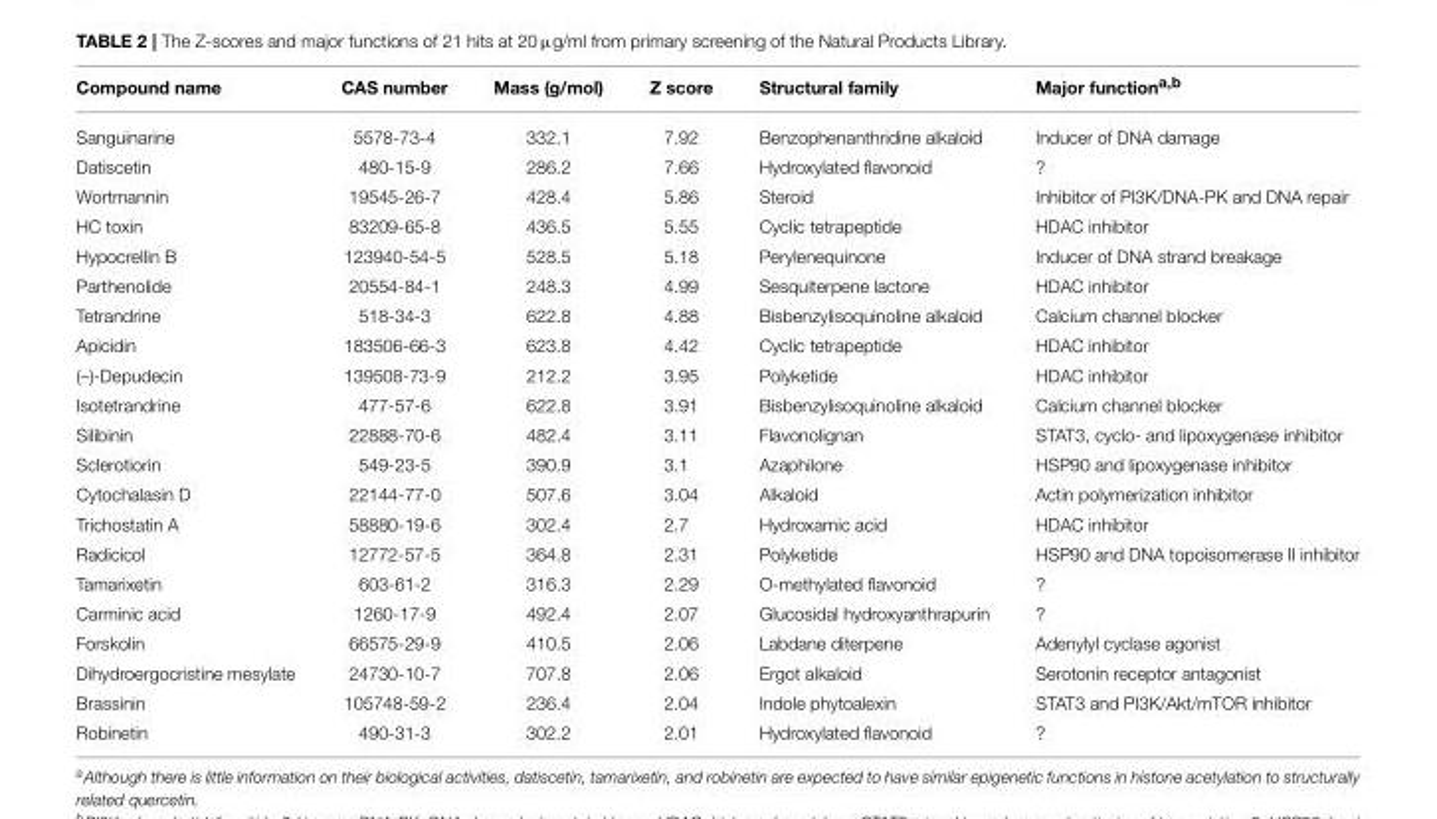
<table><thead><tr><td>Compound name</td><td>CAS number</td><td>Mass (g/mol)</td><td>Z score</td><td>Structural family</td><td>Major function<sup>a,b</sup></td></tr></thead><tbody><tr><td>Sanguinarine</td><td>5578-73-4</td><td>332.1</td><td>7.92</td><td>Benzophenanthridine alkaloid</td><td>Inducer of DNA damage</td></tr><tr><td>Datiscetin</td><td>480-15-9</td><td>286.2</td><td>7.66</td><td>Hydroxylated flavonoid</td><td>?</td></tr><tr><td>Wortmannin</td><td>19545-26-7</td><td>428.4</td><td>5.86</td><td>Steroid</td><td>Inhibitor of PI3K/DNA-PK and DNA repair</td></tr><tr><td>HC toxin</td><td>83209-65-8</td><td>436.5</td><td>5.55</td><td>Cyclic tetrapeptide</td><td>HDAC inhibitor</td></tr><tr><td>Hypocrellin B</td><td>123940-54-5</td><td>528.5</td><td>5.18</td><td>Perylenequinone</td><td>Inducer of DNA strand breakage</td></tr><tr><td>Parthenolide</td><td>20554-84-1</td><td>248.3</td><td>4.99</td><td>Sesquiterpene lactone</td><td>HDAC inhibitor</td></tr><tr><td>Tetrandrine</td><td>518-34-3</td><td>622.8</td><td>4.88</td><td>Bisbenzylisoquinoline alkaloid</td><td>Calcium channel blocker</td></tr><tr><td>Apicidin</td><td>183506-66-3</td><td>623.8</td><td>4.42</td><td>Cyclic tetrapeptide</td><td>HDAC inhibitor</td></tr><tr><td>(–)-Depudecin</td><td>139508-73-9</td><td>212.2</td><td>3.95</td><td>Polyketide</td><td>HDAC inhibitor</td></tr><tr><td>Isotetrandrine</td><td>477-57-6</td><td>622.8</td><td>3.91</td><td>Bisbenzylisoquinoline alkaloid</td><td>Calcium channel blocker</td></tr><tr><td>Silibinin</td><td>22888-70-6</td><td>482.4</td><td>3.11</td><td>Flavonolignan</td><td>STAT3, cyclo- and lipoxygenase inhibitor</td></tr><tr><td>Sclerotiorin</td><td>549-23-5</td><td>390.9</td><td>3.1</td><td>Azaphilone</td><td>HSP90 and lipoxygenase inhibitor</td></tr><tr><td>Cytochalasin D</td><td>22144-77-0</td><td>507.6</td><td>3.04</td><td>Alkaloid</td><td>Actin polymerization inhibitor</td></tr><tr><td>Trichostatin A</td><td>58880-19-6</td><td>302.4</td><td>2.7</td><td>Hydroxamic acid</td><td>HDAC inhibitor</td></tr><tr><td>Radicicol</td><td>12772-57-5</td><td>364.8</td><td>2.31</td><td>Polyketide</td><td>HSP90 and DNA topoisomerase II inhibitor</td></tr><tr><td>Tamarixetin</td><td>603-61-2</td><td>316.3</td><td>2.29</td><td>O-methylated flavonoid</td><td>?</td></tr><tr><td>Carminic acid</td><td>1260-17-9</td><td>492.4</td><td>2.07</td><td>Glucosidal hydroxyanthrapurin</td><td>?</td></tr><tr><td>Forskolin</td><td>66575-29-9</td><td>410.5</td><td>2.06</td><td>Labdane diterpene</td><td>Adenylyl cyclase agonist</td></tr><tr><td>Dihydroergocristine mesylate</td><td>24730-10-7</td><td>707.8</td><td>2.06</td><td>Ergot alkaloid</td><td>Serotonin receptor antagonist</td></tr><tr><td>Brassinin</td><td>105748-59-2</td><td>236.4</td><td>2.04</td><td>Indole phytoalexin</td><td>STAT3 and PI3K/Akt/mTOR inhibitor</td></tr><tr><td>Robinetin</td><td>490-31-3</td><td>302.2</td><td>2.01</td><td>Hydroxylated flavonoid</td><td>?</td></tr></tbody></table>